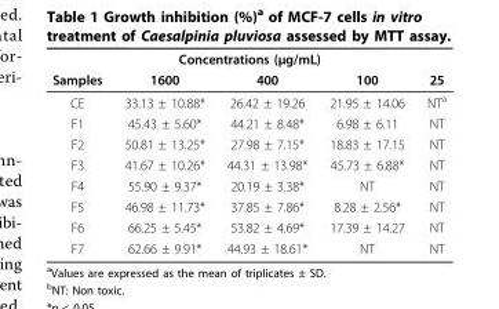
<table><thead><tr><td colspan="5">Concentrations (μg/mL)</td></tr><tr><td>Samples</td><td>1600</td><td>400</td><td>100</td><td>25</td></tr></thead><tbody><tr><td>CE</td><td>33.13 ± 10.88*</td><td>26.42 ± 19.26</td><td>21.95 ± 14.06</td><td>NT<sup>a</sup></td></tr><tr><td>F1</td><td>45.43 ± 5.60*</td><td>44.21 ± 8.48*</td><td>6.98 ± 6.11</td><td>NT</td></tr><tr><td>F2</td><td>50.81 ± 13.25*</td><td>27.98 ± 7.15*</td><td>18.83 ± 17.15</td><td>NT</td></tr><tr><td>F3</td><td>41.67 ± 10.26*</td><td>44.31 ± 13.98*</td><td>45.73 ± 6.88*</td><td>NT</td></tr><tr><td>F4</td><td>55.90 ± 9.37*</td><td>20.19 ± 3.38*</td><td>NT</td><td>NT</td></tr><tr><td>F5</td><td>46.98 ± 11.73*</td><td>37.85 ± 7.86*</td><td>8.28 ± 2.56*</td><td>NT</td></tr><tr><td>F6</td><td>66.25 ± 5.45*</td><td>53.82 ± 4.69*</td><td>17.39 ± 14.27</td><td>NT</td></tr><tr><td>F7</td><td>62.66 ± 9.91*</td><td>44.93 ± 18.61*</td><td>NT</td><td>NT</td></tr></tbody></table>